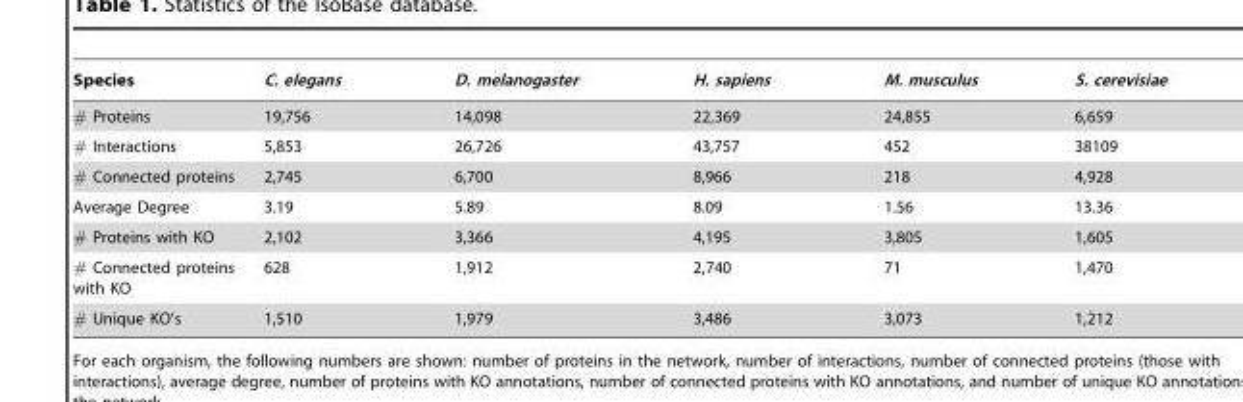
<table><thead><tr><td>Species</td><td>C. elegans</td><td>D. melanogaster</td><td>H. sapiens</td><td>M. musculus</td><td>S. cerevisiae</td></tr></thead><tbody><tr><td># Proteins</td><td>19,756</td><td>14,098</td><td>22,369</td><td>24,855</td><td>6,659</td></tr><tr><td># Interactions</td><td>5,853</td><td>26,726</td><td>43,757</td><td>452</td><td>38109</td></tr><tr><td># Connected proteins</td><td>2,745</td><td>6,700</td><td>8,966</td><td>218</td><td>4,928</td></tr><tr><td>Average Degree</td><td>3.19</td><td>5.89</td><td>8.09</td><td>1.56</td><td>13.36</td></tr><tr><td># Proteins with KO</td><td>2,102</td><td>3,366</td><td>4,195</td><td>3,805</td><td>1,605</td></tr><tr><td># Connected proteins with KO</td><td>628</td><td>1,912</td><td>2,740</td><td>71</td><td>1,470</td></tr><tr><td># Unique KO’s</td><td>1,510</td><td>1,979</td><td>3,486</td><td>3,073</td><td>1,212</td></tr></tbody></table>